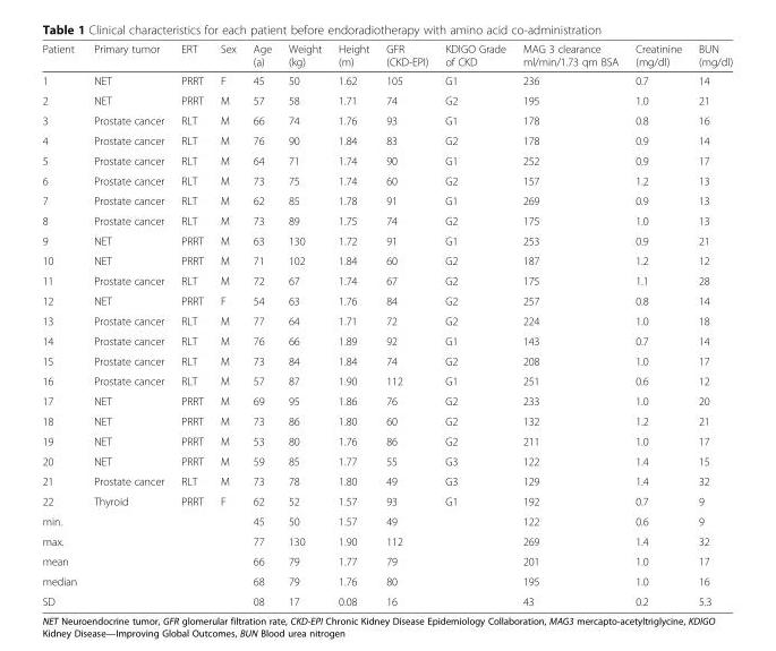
<table><thead><tr><td>Patient</td><td>Primary tumor</td><td>ERT</td><td>Sex</td><td>Age (a)</td><td>Weight (kg)</td><td>Height (m)</td><td>GFR (CKD-EPI)</td><td>KDIGO Grade of CKD</td><td>MAG 3 clearance ml/min/1.73 qm BSA</td><td>Creatinine (mg/dl)</td><td>BUN (mg/dl)</td></tr></thead><tbody><tr><td>1</td><td>NET</td><td>PRRT</td><td>F</td><td>45</td><td>50</td><td>1.62</td><td>105</td><td>G1</td><td>236</td><td>0.7</td><td>14</td></tr><tr><td>2</td><td>NET</td><td>PRRT</td><td>M</td><td>57</td><td>58</td><td>1.71</td><td>74</td><td>G2</td><td>195</td><td>1.0</td><td>21</td></tr><tr><td>3</td><td>Prostate cancer</td><td>RLT</td><td>M</td><td>66</td><td>74</td><td>1.76</td><td>93</td><td>G1</td><td>178</td><td>0.8</td><td>16</td></tr><tr><td>4</td><td>Prostate cancer</td><td>RLT</td><td>M</td><td>76</td><td>90</td><td>1.84</td><td>83</td><td>G2</td><td>178</td><td>0.9</td><td>14</td></tr><tr><td>5</td><td>Prostate cancer</td><td>RLT</td><td>M</td><td>64</td><td>71</td><td>1.74</td><td>90</td><td>G1</td><td>252</td><td>0.9</td><td>17</td></tr><tr><td>6</td><td>Prostate cancer</td><td>RLT</td><td>M</td><td>73</td><td>75</td><td>1.74</td><td>60</td><td>G2</td><td>157</td><td>1.2</td><td>13</td></tr><tr><td>7</td><td>Prostate cancer</td><td>RLT</td><td>M</td><td>62</td><td>85</td><td>1.78</td><td>91</td><td>G1</td><td>269</td><td>0.9</td><td>13</td></tr><tr><td>8</td><td>Prostate cancer</td><td>RLT</td><td>M</td><td>73</td><td>89</td><td>1.75</td><td>74</td><td>G2</td><td>175</td><td>1.0</td><td>13</td></tr><tr><td>9</td><td>NET</td><td>PRRT</td><td>M</td><td>63</td><td>130</td><td>1.72</td><td>91</td><td>G1</td><td>253</td><td>0.9</td><td>21</td></tr><tr><td>10</td><td>NET</td><td>PRRT</td><td>M</td><td>71</td><td>102</td><td>1.84</td><td>60</td><td>G2</td><td>187</td><td>1.2</td><td>12</td></tr><tr><td>11</td><td>Prostate cancer</td><td>RLT</td><td>M</td><td>72</td><td>67</td><td>1.74</td><td>67</td><td>G2</td><td>175</td><td>1.1</td><td>28</td></tr><tr><td>12</td><td>NET</td><td>PRRT</td><td>F</td><td>54</td><td>63</td><td>1.76</td><td>84</td><td>G2</td><td>257</td><td>0.8</td><td>14</td></tr><tr><td>13</td><td>Prostate cancer</td><td>RLT</td><td>M</td><td>77</td><td>64</td><td>1.71</td><td>72</td><td>G2</td><td>224</td><td>1.0</td><td>18</td></tr><tr><td>14</td><td>Prostate cancer</td><td>RLT</td><td>M</td><td>76</td><td>66</td><td>1.89</td><td>92</td><td>G1</td><td>143</td><td>0.7</td><td>14</td></tr><tr><td>15</td><td>Prostate cancer</td><td>RLT</td><td>M</td><td>73</td><td>84</td><td>1.84</td><td>74</td><td>G2</td><td>208</td><td>1.0</td><td>17</td></tr><tr><td>16</td><td>Prostate cancer</td><td>RLT</td><td>M</td><td>57</td><td>87</td><td>1.90</td><td>112</td><td>G1</td><td>251</td><td>0.6</td><td>12</td></tr><tr><td>17</td><td>NET</td><td>PRRT</td><td>M</td><td>69</td><td>95</td><td>1.86</td><td>76</td><td>G2</td><td>233</td><td>1.0</td><td>20</td></tr><tr><td>18</td><td>NET</td><td>PRRT</td><td>M</td><td>73</td><td>86</td><td>1.80</td><td>60</td><td>G2</td><td>132</td><td>1.2</td><td>21</td></tr><tr><td>19</td><td>NET</td><td>PRRT</td><td>M</td><td>53</td><td>80</td><td>1.76</td><td>86</td><td>G2</td><td>211</td><td>1.0</td><td>17</td></tr><tr><td>20</td><td>NET</td><td>PRRT</td><td>M</td><td>59</td><td>85</td><td>1.77</td><td>55</td><td>G3</td><td>122</td><td>1.4</td><td>15</td></tr><tr><td>21</td><td>Prostate cancer</td><td>RLT</td><td>M</td><td>73</td><td>78</td><td>1.80</td><td>49</td><td>G3</td><td>129</td><td>1.4</td><td>32</td></tr><tr><td>22</td><td>Thyroid</td><td>PRRT</td><td>F</td><td>62</td><td>52</td><td>1.57</td><td>93</td><td>G1</td><td>192</td><td>0.7</td><td>9</td></tr><tr><td>min.</td><td></td><td></td><td></td><td>45</td><td>50</td><td>1.57</td><td>49</td><td></td><td>122</td><td>0.6</td><td>9</td></tr><tr><td>max.</td><td></td><td></td><td></td><td>77</td><td>130</td><td>1.90</td><td>112</td><td></td><td>269</td><td>1.4</td><td>32</td></tr><tr><td>mean</td><td></td><td></td><td></td><td>66</td><td>79</td><td>1.77</td><td>79</td><td></td><td>201</td><td>1.0</td><td>17</td></tr><tr><td>median</td><td></td><td></td><td></td><td>68</td><td>79</td><td>1.76</td><td>80</td><td></td><td>195</td><td>1.0</td><td>16</td></tr><tr><td>SD</td><td></td><td></td><td></td><td>08</td><td>17</td><td>0.08</td><td>16</td><td></td><td>43</td><td>0.2</td><td>5.3</td></tr></tbody></table>